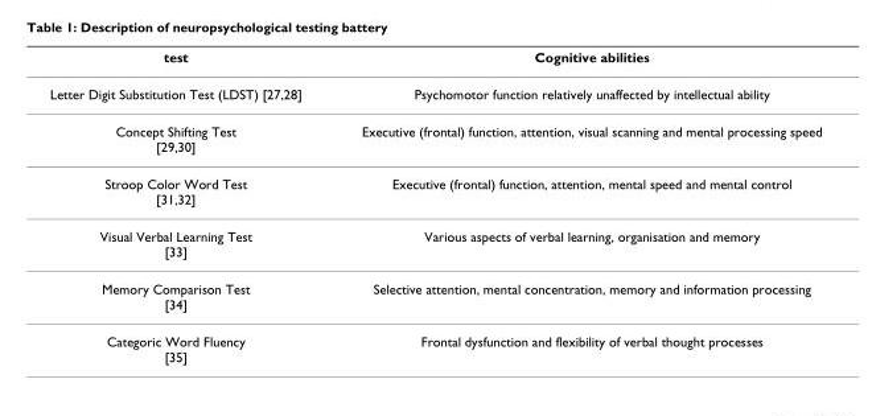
<table><thead><tr><td>test</td><td>Cognitive abilities</td></tr></thead><tbody><tr><td>Letter Digit Substitution Test (LDST) [27,28]</td><td>Psychomotor function relatively unaffected by intellectual ability</td></tr><tr><td>Concept Shifting Test [29,30]</td><td>Executive (frontal) function, attention, visual scanning and mental processing speed</td></tr><tr><td>Stroop Color Word Test [31,32]</td><td>Executive (frontal) function, attention, mental speed and mental control</td></tr><tr><td>Visual Verbal Learning Test [33]</td><td>Various aspects of verbal learning, organisation and memory</td></tr><tr><td>Memory Comparison Test [34]</td><td>Selective attention, mental concentration, memory and information processing</td></tr><tr><td>Categoric Word Fluency [35]</td><td>Frontal dysfunction and flexibility of verbal thought processes</td></tr></tbody></table>